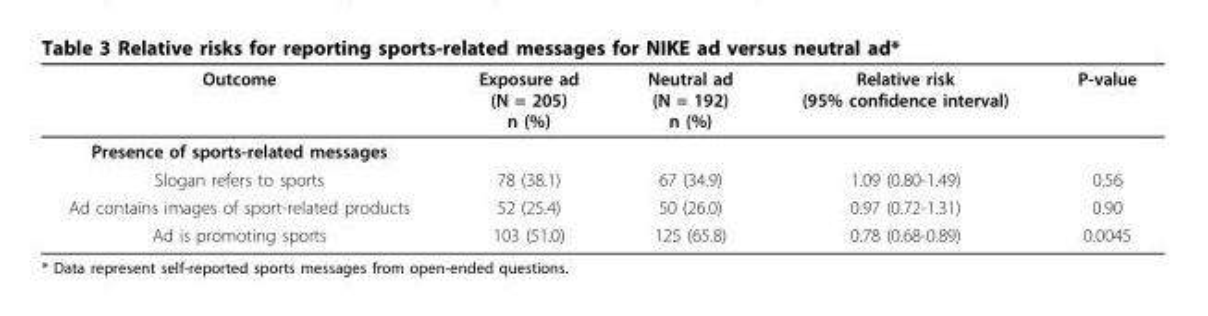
<table><thead><tr><td>Outcome</td><td>Exposure ad (N = 205) n (%)</td><td>Neutral ad (N = 192) n (%)</td><td>Relative risk (95% confidence interval)</td><td>P-value</td></tr></thead><tbody><tr><td colspan="5">Presence of sports-related messages</td></tr><tr><td>Slogan refers to sports</td><td>78 (38.1)</td><td>67 (34.9)</td><td>1.09 (0.80-1.49)</td><td>0.56</td></tr><tr><td>Ad contains images of sport-related products</td><td>52 (25.4)</td><td>50 (26.0)</td><td>0.97 (0.72-1.31)</td><td>0.90</td></tr><tr><td>Ad is promoting sports</td><td>103 (51.0)</td><td>125 (65.8)</td><td>0.78 (0.68-0.89)</td><td>0.0045</td></tr></tbody></table>